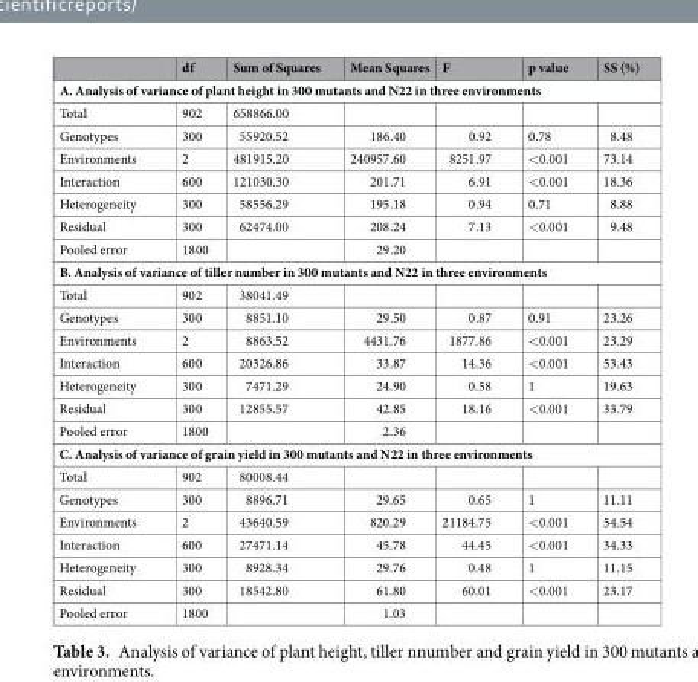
<table><thead><tr><td></td><td>df</td><td>Sum of Squares</td><td>Mean Squares</td><td>F</td><td>p value</td><td>SS (%)</td></tr></thead><tbody><tr><td colspan="7">A. Analysis of variance of plant height in 300 mutants and N22 in three environments</td></tr><tr><td>Total</td><td>902</td><td>658866.00</td><td></td><td></td><td></td><td></td></tr><tr><td>Genotypes</td><td>300</td><td>55920.52</td><td>186.40</td><td>0.92</td><td>0.78</td><td>8.48</td></tr><tr><td>Environments</td><td>2</td><td>481915.20</td><td>240957.60</td><td>8251.97</td><td>&lt;0.001</td><td>73.14</td></tr><tr><td>Interaction</td><td>600</td><td>121030.30</td><td>201.71</td><td>6.91</td><td>&lt;0.001</td><td>18.36</td></tr><tr><td>Heterogeneity</td><td>300</td><td>58556.29</td><td>195.18</td><td>0.94</td><td>0.71</td><td>8.88</td></tr><tr><td>Residual</td><td>300</td><td>62474.00</td><td>208.24</td><td>7.13</td><td>&lt;0.001</td><td>9.48</td></tr><tr><td>Pooled error</td><td>1800</td><td></td><td>29.20</td><td></td><td></td><td></td></tr><tr><td colspan="7">B. Analysis of variance of tiller number in 300 mutants and N22 in three environments</td></tr><tr><td>Total</td><td>902</td><td>38041.49</td><td></td><td></td><td></td><td></td></tr><tr><td>Genotypes</td><td>300</td><td>8851.10</td><td>29.50</td><td>0.87</td><td>0.91</td><td>23.26</td></tr><tr><td>Environments</td><td>2</td><td>8863.52</td><td>4431.76</td><td>1877.86</td><td>&lt;0.001</td><td>23.29</td></tr><tr><td>Interaction</td><td>600</td><td>20326.86</td><td>33.87</td><td>14.36</td><td>&lt;0.001</td><td>53.43</td></tr><tr><td>Heterogeneity</td><td>300</td><td>7471.29</td><td>24.90</td><td>0.58</td><td>1</td><td>19.63</td></tr><tr><td>Residual</td><td>300</td><td>12855.57</td><td>42.85</td><td>18.16</td><td>&lt;0.001</td><td>33.79</td></tr><tr><td>Pooled error</td><td>1800</td><td></td><td>2.36</td><td></td><td></td><td></td></tr><tr><td colspan="7">C. Analysis of variance of grain yield in 300 mutants and N22 in three environments</td></tr><tr><td>Total</td><td>902</td><td>80008.44</td><td></td><td></td><td></td><td></td></tr><tr><td>Genotypes</td><td>300</td><td>8896.71</td><td>29.65</td><td>0.65</td><td>1</td><td>11.11</td></tr><tr><td>Environments</td><td>2</td><td>43640.59</td><td>820.29</td><td>21184.75</td><td>&lt;0.001</td><td>54.54</td></tr><tr><td>Interaction</td><td>600</td><td>27471.14</td><td>45.78</td><td>44.45</td><td>&lt;0.001</td><td>34.33</td></tr><tr><td>Heterogeneity</td><td>300</td><td>8928.34</td><td>29.76</td><td>0.48</td><td>1</td><td>11.15</td></tr><tr><td>Residual</td><td>300</td><td>18542.80</td><td>61.80</td><td>60.01</td><td>&lt;0.001</td><td>23.17</td></tr><tr><td>Pooled error</td><td>1800</td><td></td><td>1.03</td><td></td><td></td><td></td></tr></tbody></table>